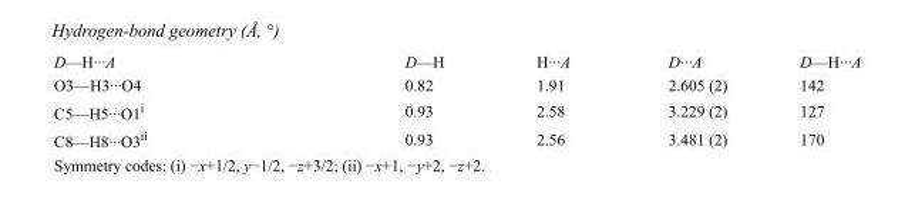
<table><tbody><tr><td>D—H···A</td><td>D—H</td><td>H···A</td><td>D···A</td><td>D—H···A</td></tr><tr><td>O3—H3···O4</td><td>0.82</td><td>1.91</td><td>2.605 (2)</td><td>142</td></tr><tr><td>C5—H5···O1<sup>i</sup></td><td>0.93</td><td>2.58</td><td>3.229 (2)</td><td>127</td></tr><tr><td>C8—H8···O3<sup>ii</sup></td><td>0.93</td><td>2.56</td><td>3.481 (2)</td><td>170</td></tr></tbody></table>